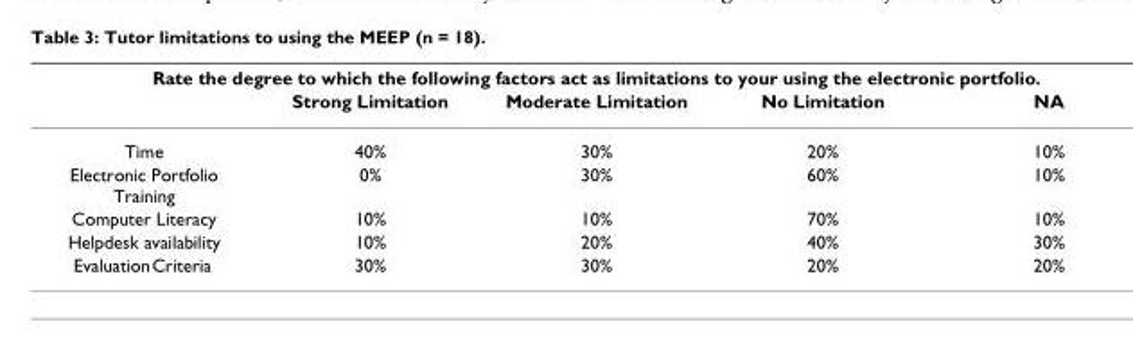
<table><thead><tr><td colspan="5">Rate the degree to which the following factors act as limitations to your using the electronic portfolio.</td></tr><tr><td></td><td>Strong Limitation</td><td>Moderate Limitation</td><td>No Limitation</td><td>NA</td></tr></thead><tbody><tr><td>Time</td><td>40%</td><td>30%</td><td>20%</td><td>10%</td></tr><tr><td>Electronic Portfolio Training</td><td>0%</td><td>30%</td><td>60%</td><td>10%</td></tr><tr><td>Computer Literacy</td><td>10%</td><td>10%</td><td>70%</td><td>10%</td></tr><tr><td>Helpdesk availability</td><td>10%</td><td>20%</td><td>40%</td><td>30%</td></tr><tr><td>Evaluation Criteria</td><td>30%</td><td>30%</td><td>20%</td><td>20%</td></tr></tbody></table>